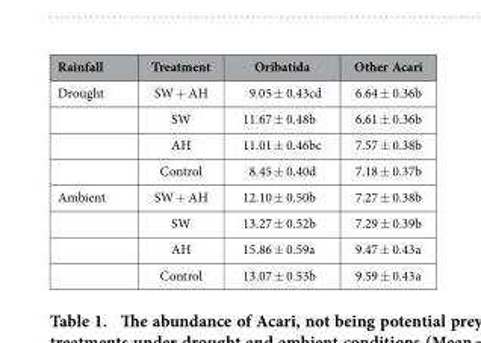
<table><thead><tr><td>Rainfall</td><td>Treatment</td><td>Oribatida</td><td>Other Acari</td></tr></thead><tbody><tr><td rowspan="4">Drought</td><td>SW + AH</td><td>9.05 ± 0.43cd</td><td>6.64 ± 0.36b</td></tr><tr><td>SW</td><td>11.67 ± 0.48b</td><td>6.61 ± 0.36b</td></tr><tr><td>AH</td><td>11.01 ± 0.46bc</td><td>7.57 ± 0.38b</td></tr><tr><td>Control</td><td>8.45 ± 0.40d</td><td>7.18 ± 0.37b</td></tr><tr><td rowspan="4">Ambient</td><td>SW + AH</td><td>12.10 ± 0.50b</td><td>7.27 ± 0.38b</td></tr><tr><td>SW</td><td>13.27 ± 0.52b</td><td>7.29 ± 0.39b</td></tr><tr><td>AH</td><td>15.86 ± 0.59a</td><td>9.47 ± 0.43a</td></tr><tr><td>Control</td><td>13.07 ± 0.53b</td><td>9.59 ± 0.43a</td></tr></tbody></table>